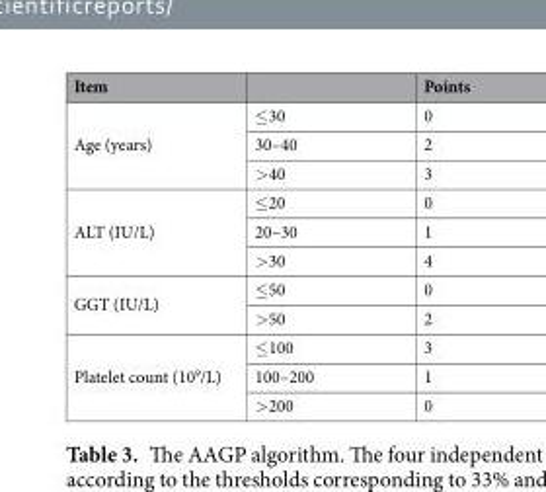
<table><thead><tr><td>Item</td><td></td><td>Points</td></tr></thead><tbody><tr><td rowspan="3">Age (years)</td><td>≤30</td><td>0</td></tr><tr><td>30–40</td><td>2</td></tr><tr><td>&gt;40</td><td>3</td></tr><tr><td rowspan="3">ALT (IU/L)</td><td>≤20</td><td>0</td></tr><tr><td>20–30</td><td>1</td></tr><tr><td>&gt;30</td><td>4</td></tr><tr><td rowspan="2">GGT (IU/L)</td><td>≤50</td><td>0</td></tr><tr><td>&gt;50</td><td>2</td></tr><tr><td rowspan="3">Platelet count (10<sup>9</sup>/L)</td><td>≤100</td><td>3</td></tr><tr><td>100–200</td><td>1</td></tr><tr><td>&gt;200</td><td>0</td></tr></tbody></table>